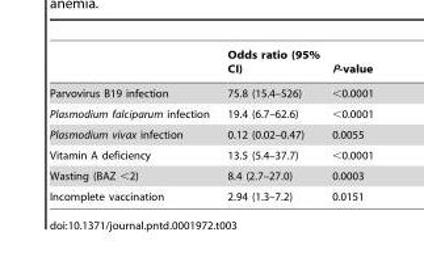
<table><thead><tr><td></td><td>Odds ratio (95% CI)</td><td>P-value</td></tr></thead><tbody><tr><td>Parvovirus B19 infection</td><td>75.8 (15.4–526)</td><td>&lt;0.0001</td></tr><tr><td>Plasmodium falciparum infection</td><td>19.4 (6.7–62.6)</td><td>&lt;0.0001</td></tr><tr><td>Plasmodium vivax infection</td><td>0.12 (0.02–0.47)</td><td>0.0055</td></tr><tr><td>Vitamin A deficiency</td><td>13.5 (5.4–37.7)</td><td>&lt;0.0001</td></tr><tr><td>Wasting (BAZ &lt;2)</td><td>8.4 (2.7–27.0)</td><td>0.0003</td></tr><tr><td>Incomplete vaccination</td><td>2.94 (1.3–7.2)</td><td>0.0151</td></tr></tbody></table>